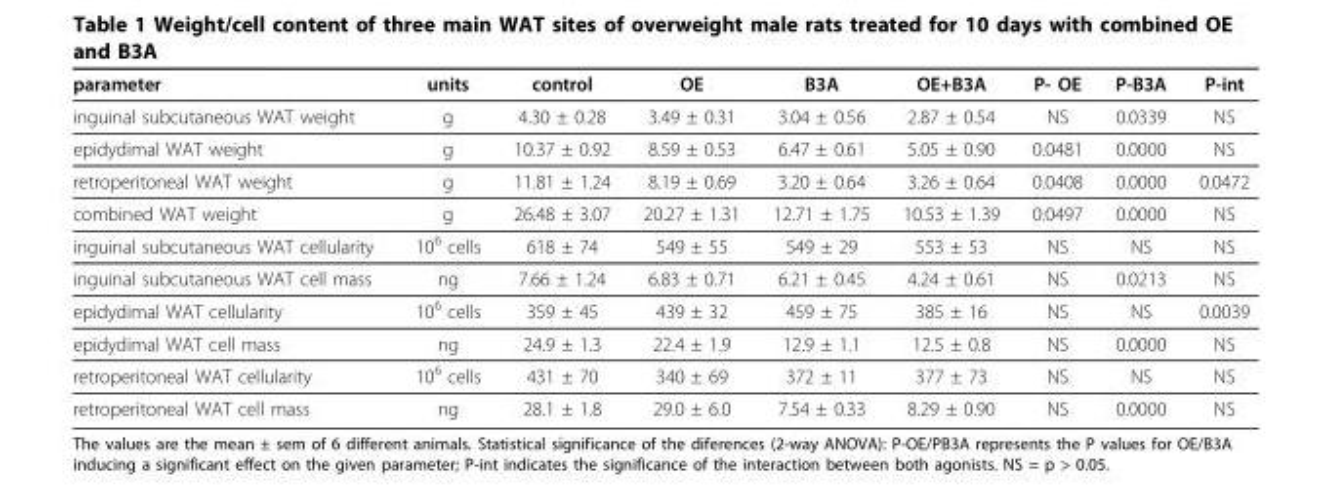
<table><thead><tr><td>parameter</td><td>units</td><td>control</td><td>OE</td><td>B3A</td><td>OE+B3A</td><td>P- OE</td><td>P-B3A</td><td>P-int</td></tr></thead><tbody><tr><td>inguinal subcutaneous WAT weight</td><td>g</td><td>4.30 ± 0.28</td><td>3.49 ± 0.31</td><td>3.04 ± 0.56</td><td>2.87 ± 0.54</td><td>NS</td><td>0.0339</td><td>NS</td></tr><tr><td>epidydimal WAT weight</td><td>g</td><td>10.37 ± 0.92</td><td>8.59 ± 0.53</td><td>6.47 ± 0.61</td><td>5.05 ± 0.90</td><td>0.0481</td><td>0.0000</td><td>NS</td></tr><tr><td>retroperitoneal WAT weight</td><td>g</td><td>11.81 ± 1.24</td><td>8.19 ± 0.69</td><td>3.20 ± 0.64</td><td>3.26 ± 0.64</td><td>0.0408</td><td>0.0000</td><td>0.0472</td></tr><tr><td>combined WAT weight</td><td>g</td><td>26.48 ± 3.07</td><td>20.27 ± 1.31</td><td>12.71 ± 1.75</td><td>10.53 ± 1.39</td><td>0.0497</td><td>0.0000</td><td>NS</td></tr><tr><td>inguinal subcutaneous WAT cellularity</td><td>10<sup>6</sup> cells</td><td>618 ± 74</td><td>549 ± 55</td><td>549 ± 29</td><td>553 ± 53</td><td>NS</td><td>NS</td><td>NS</td></tr><tr><td>inguinal subcutaneous WAT cell mass</td><td>ng</td><td>7.66 ± 1.24</td><td>6.83 ± 0.71</td><td>6.21 ± 0.45</td><td>4.24 ± 0.61</td><td>NS</td><td>0.0213</td><td>NS</td></tr><tr><td>epidydimal WAT cellularity</td><td>10<sup>6</sup> cells</td><td>359 ± 45</td><td>439 ± 32</td><td>459 ± 75</td><td>385 ± 16</td><td>NS</td><td>NS</td><td>0.0039</td></tr><tr><td>epidydimal WAT cell mass</td><td>ng</td><td>24.9 ± 1.3</td><td>22.4 ± 1.9</td><td>12.9 ± 1.1</td><td>12.5 ± 0.8</td><td>NS</td><td>0.0000</td><td>NS</td></tr><tr><td>retroperitoneal WAT cellularity</td><td>10<sup>6</sup> cells</td><td>431 ± 70</td><td>340 ± 69</td><td>372 ± 11</td><td>377 ± 73</td><td>NS</td><td>NS</td><td>NS</td></tr><tr><td>retroperitoneal WAT cell mass</td><td>ng</td><td>28.1 ± 1.8</td><td>29.0 ± 6.0</td><td>7.54 ± 0.33</td><td>8.29 ± 0.90</td><td>NS</td><td>0.0000</td><td>NS</td></tr></tbody></table>